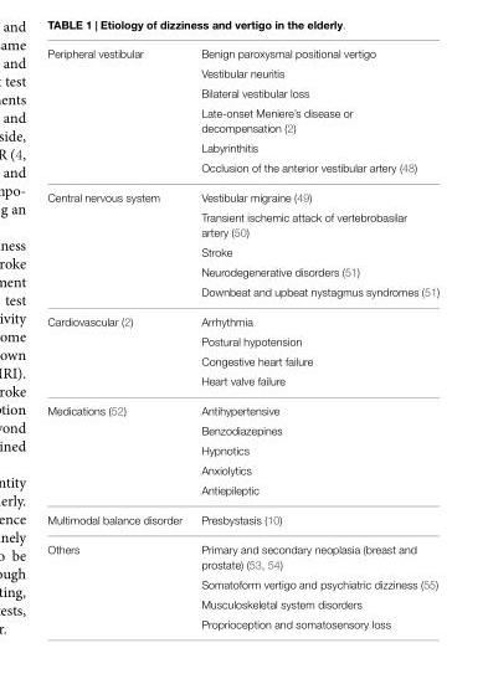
<table><tbody><tr><td rowspan="6">Peripheral vestibular</td><td>Benign paroxysmal positional vertigo</td></tr><tr><td>Vestibular neuritis</td></tr><tr><td>Bilateral vestibular loss</td></tr><tr><td>Late-onset Meniere’s disease or decompensation (2)</td></tr><tr><td>Labyrinthitis</td></tr><tr><td>Occlusion of the anterior vestibular artery (48)</td></tr><tr><td rowspan="5">Central nervous system</td><td>Vestibular migraine (49)</td></tr><tr><td>Transient ischemic attack of vertebrobasilar artery (50)</td></tr><tr><td>Stroke</td></tr><tr><td>Neurodegenerative disorders (51)</td></tr><tr><td>Downbeat and upbeat nystagmus syndromes (51)</td></tr><tr><td rowspan="4">Cardiovascular (2)</td><td>Arrhythmia</td></tr><tr><td>Postural hypotension</td></tr><tr><td>Congestive heart failure</td></tr><tr><td>Heart valve failure</td></tr><tr><td rowspan="5">Medications (52)</td><td>Antihypertensive</td></tr><tr><td>Benzodiazepines</td></tr><tr><td>Hypnotics</td></tr><tr><td>Anxiolytics</td></tr><tr><td>Antiepileptic</td></tr><tr><td>Multimodal balance disorder</td><td>Presbystasis (10)</td></tr><tr><td rowspan="4">Others</td><td>Primary and secondary neoplasia (breast and prostate) (53, 54)</td></tr><tr><td>Somatoform vertigo and psychiatric dizziness (55)</td></tr><tr><td>Musculoskeletal system disorders</td></tr><tr><td>Proprioception and somatosensory loss</td></tr></tbody></table>